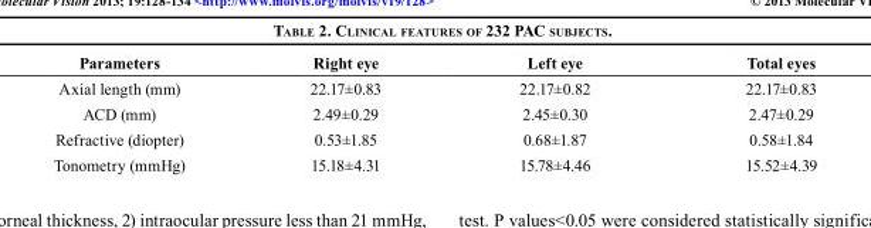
<table><thead><tr><td>Parameters</td><td>Right eye</td><td>Left eye</td><td>Total eyes</td></tr></thead><tbody><tr><td>Axial length (mm)</td><td>22.17±0.83</td><td>22.17±0.82</td><td>22.17±0.83</td></tr><tr><td>ACD (mm)</td><td>2.49±0.29</td><td>2.45±0.30</td><td>2.47±0.29</td></tr><tr><td>Refractive (diopter)</td><td>0.53±1.85</td><td>0.68±1.87</td><td>0.58±1.84</td></tr><tr><td>Tonometry (mmHg)</td><td>15.18±4.31</td><td>15.78±4.46</td><td>15.52±4.39</td></tr></tbody></table>